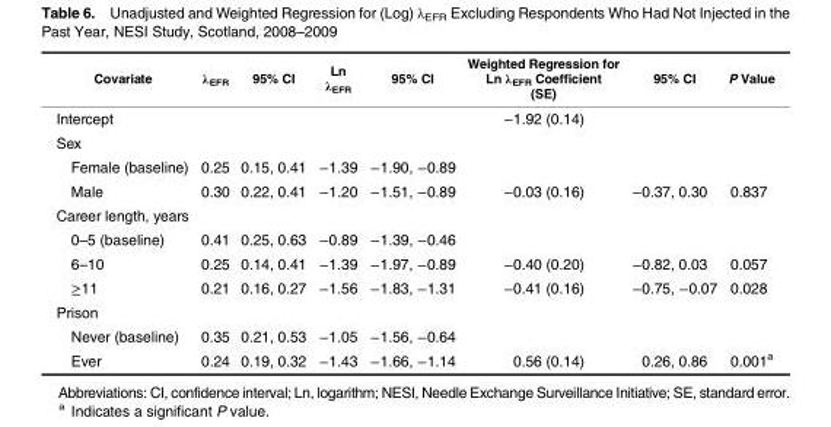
<table><thead><tr><td>Covariate</td><td>λ<sub>EFR</sub></td><td>95% CI</td><td>Ln λ<sub>EFR</sub></td><td>95% CI</td><td>Weighted Regression for Ln λ<sub>EFR</sub> Coefficient (SE)</td><td>95% CI</td><td>P Value</td></tr></thead><tbody><tr><td>Intercept</td><td></td><td></td><td></td><td></td><td>−1.92 (0.14)</td><td></td><td></td></tr><tr><td colspan="8">Sex</td></tr><tr><td>Female (baseline)</td><td>0.25</td><td>0.15, 0.41</td><td>−1.39</td><td>−1.90, −0.89</td><td></td><td></td><td></td></tr><tr><td>Male</td><td>0.30</td><td>0.22, 0.41</td><td>−1.20</td><td>−1.51, −0.89</td><td>−0.03 (0.16)</td><td>−0.37, 0.30</td><td>0.837</td></tr><tr><td colspan="8">Career length, years</td></tr><tr><td>0–5 (baseline)</td><td>0.41</td><td>0.25, 0.63</td><td>−0.89</td><td>−1.39, −0.46</td><td></td><td></td><td></td></tr><tr><td>6–10</td><td>0.25</td><td>0.14, 0.41</td><td>−1.39</td><td>−1.97, −0.89</td><td>−0.40 (0.20)</td><td>−0.82, 0.03</td><td>0.057</td></tr><tr><td>≥11</td><td>0.21</td><td>0.16, 0.27</td><td>−1.56</td><td>−1.83, −1.31</td><td>−0.41 (0.16)</td><td>−0.75, −0.07</td><td>0.028</td></tr><tr><td colspan="8">Prison</td></tr><tr><td>Never (baseline)</td><td>0.35</td><td>0.21, 0.53</td><td>−1.05</td><td>−1.56, −0.64</td><td></td><td></td><td></td></tr><tr><td>Ever</td><td>0.24</td><td>0.19, 0.32</td><td>−1.43</td><td>−1.66, −1.14</td><td>0.56 (0.14)</td><td>0.26, 0.86</td><td>0.001<sup>a</sup></td></tr></tbody></table>